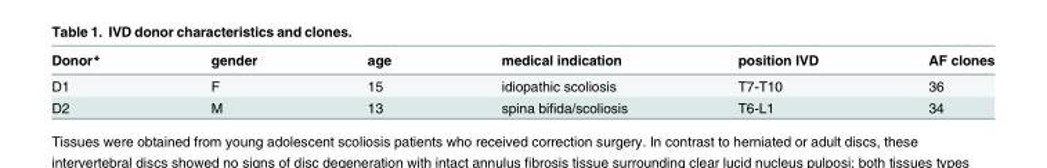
<table><thead><tr><td>Donor*</td><td>gender</td><td>age</td><td>medical indication</td><td>position IVD</td><td>AF clones</td></tr></thead><tbody><tr><td>D1</td><td>F</td><td>15</td><td>idiopathic scoliosis</td><td>T7-T10</td><td>36</td></tr><tr><td>D2</td><td>M</td><td>13</td><td>spina bifida/scoliosis</td><td>T6-L1</td><td>34</td></tr></tbody></table>